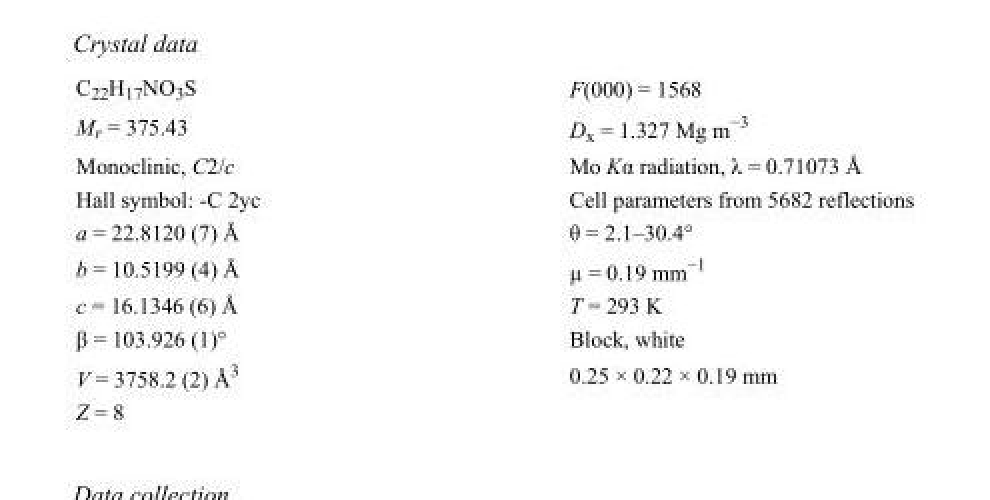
<table><tbody><tr><td>C<sub>22</sub>H<sub>17</sub>NO<sub>3</sub>S</td><td>F(000) = 1568</td></tr><tr><td>M<sub>r</sub> = 375.43</td><td>D<sub>x</sub> = 1.327 Mg m<sup>−3</sup></td></tr><tr><td>Monoclinic, C2/c</td><td>Mo Kα radiation, λ = 0.71073 Å</td></tr><tr><td>Hall symbol: -C 2yc</td><td>Cell parameters from 5682 reflections</td></tr><tr><td>a = 22.8120 (7) Å</td><td>θ = 2.1–30.4°</td></tr><tr><td>b = 10.5199 (4) Å</td><td>µ = 0.19 mm<sup>−1</sup></td></tr><tr><td>c = 16.1346 (6) Å</td><td>T = 293 K</td></tr><tr><td>β = 103.926 (1)°</td><td>Block, white</td></tr><tr><td>V = 3758.2 (2) Å<sup>3</sup></td><td>0.25 × 0.22 × 0.19 mm</td></tr><tr><td>Z = 8</td><td></td></tr></tbody></table>